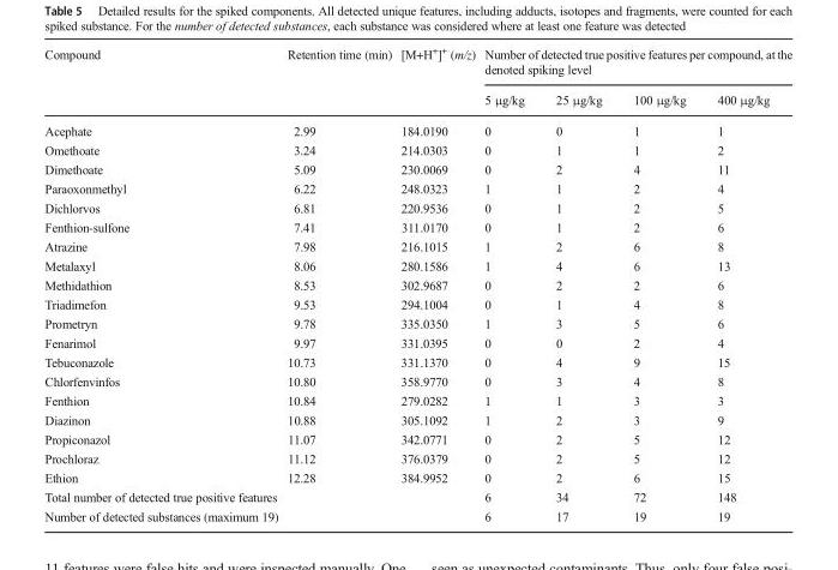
<table><thead><tr><td rowspan="2">Compound</td><td rowspan="2">Retention time (min)</td><td rowspan="2">[M+H<sup>+</sup>]<sup>+</sup> (m/z)</td><td colspan="4">Number of detected true positive features per compound, at the denoted spiking level</td></tr><tr><td>5 μg/kg</td><td>25 μg/kg</td><td>100 μg/kg</td><td>400 μg/kg</td></tr></thead><tbody><tr><td>Acephate</td><td>2.99</td><td>184.0190</td><td>0</td><td>0</td><td>1</td><td>1</td></tr><tr><td>Omethoate</td><td>3.24</td><td>214.0303</td><td>0</td><td>1</td><td>1</td><td>2</td></tr><tr><td>Dimethoate</td><td>5.09</td><td>230.0069</td><td>0</td><td>2</td><td>4</td><td>11</td></tr><tr><td>Paraoxonmethyl</td><td>6.22</td><td>248.0323</td><td>1</td><td>1</td><td>2</td><td>4</td></tr><tr><td>Dichlorvos</td><td>6.81</td><td>220.9536</td><td>0</td><td>1</td><td>2</td><td>5</td></tr><tr><td>Fenthion-sulfone</td><td>7.41</td><td>311.0170</td><td>0</td><td>1</td><td>2</td><td>6</td></tr><tr><td>Atrazine</td><td>7.98</td><td>216.1015</td><td>1</td><td>2</td><td>6</td><td>8</td></tr><tr><td>Metalaxyl</td><td>8.06</td><td>280.1586</td><td>1</td><td>4</td><td>6</td><td>13</td></tr><tr><td>Methidathion</td><td>8.53</td><td>302.9687</td><td>0</td><td>2</td><td>2</td><td>6</td></tr><tr><td>Triadimefon</td><td>9.53</td><td>294.1004</td><td>0</td><td>1</td><td>4</td><td>8</td></tr><tr><td>Prometryn</td><td>9.78</td><td>335.0350</td><td>1</td><td>3</td><td>5</td><td>6</td></tr><tr><td>Fenarimol</td><td>9.97</td><td>331.0395</td><td>0</td><td>0</td><td>2</td><td>4</td></tr><tr><td>Tebuconazole</td><td>10.73</td><td>331.1370</td><td>0</td><td>4</td><td>9</td><td>15</td></tr><tr><td>Chlorfenvinfos</td><td>10.80</td><td>358.9770</td><td>0</td><td>3</td><td>4</td><td>8</td></tr><tr><td>Fenthion</td><td>10.84</td><td>279.0282</td><td>1</td><td>1</td><td>3</td><td>3</td></tr><tr><td>Diazinon</td><td>10.88</td><td>305.1092</td><td>1</td><td>2</td><td>3</td><td>9</td></tr><tr><td>Propiconazol</td><td>11.07</td><td>342.0771</td><td>0</td><td>2</td><td>5</td><td>12</td></tr><tr><td>Prochloraz</td><td>11.12</td><td>376.0379</td><td>0</td><td>2</td><td>5</td><td>12</td></tr><tr><td>Ethion</td><td>12.28</td><td>384.9952</td><td>0</td><td>2</td><td>6</td><td>15</td></tr><tr><td>Total number of detected true positive features</td><td></td><td></td><td>6</td><td>34</td><td>72</td><td>148</td></tr><tr><td>Number of detected substances (maximum 19)</td><td></td><td></td><td>6</td><td>17</td><td>19</td><td>19</td></tr></tbody></table>